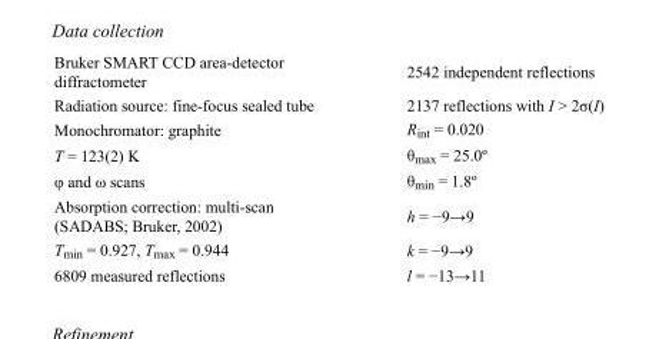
<table><tbody><tr><td>Bruker SMART CCD area-detector diffractometer</td><td>2542 independent reflections</td></tr><tr><td>Radiation source: fine-focus sealed tube</td><td>2137 reflections with I &gt; 2σ(I)</td></tr><tr><td>Monochromator: graphite</td><td>R<sub>int</sub> = 0.020</td></tr><tr><td>T = 123(2) K</td><td>θ<sub>max</sub> = 25.0º</td></tr><tr><td>φ and ω scans</td><td>θ<sub>min</sub> = 1.8º</td></tr><tr><td>Absorption correction: multi-scan (SADABS; Bruker, 2002)</td><td>h = −9→9</td></tr><tr><td>T<sub>min</sub> = 0.927, T<sub>max</sub> = 0.944</td><td>k = −9→9</td></tr><tr><td>6809 measured reflections</td><td>l = −13→11</td></tr></tbody></table>